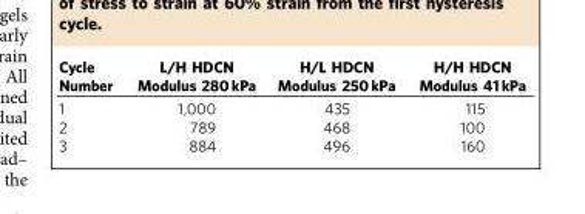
<table><thead><tr><td>Cycle Number</td><td>L/H HDCN Modulus 280 kPa</td><td>H/L HDCN Modulus 250 kPa</td><td>H/H HDCN Modulus 41 kPa</td></tr></thead><tbody><tr><td>1</td><td>1,000</td><td>435</td><td>115</td></tr><tr><td>2</td><td>789</td><td>468</td><td>100</td></tr><tr><td>3</td><td>884</td><td>496</td><td>160</td></tr></tbody></table>